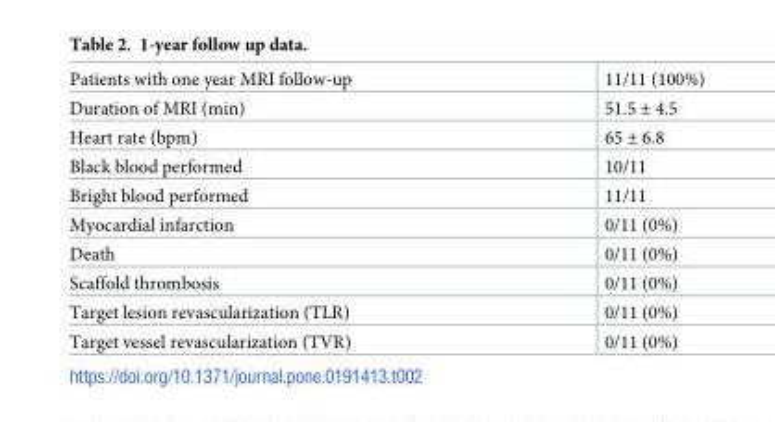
<table><tbody><tr><td>Patients with one year MRI follow-up</td><td>11/11 (100%)</td></tr><tr><td>Duration of MRI (min)</td><td>51.5 ± 4.5</td></tr><tr><td>Heart rate (bpm)</td><td>65 ± 6.8</td></tr><tr><td>Black blood performed</td><td>10/11</td></tr><tr><td>Bright blood performed</td><td>11/11</td></tr><tr><td>Myocardial infarction</td><td>0/11 (0%)</td></tr><tr><td>Death</td><td>0/11 (0%)</td></tr><tr><td>Scaffold thrombosis</td><td>0/11 (0%)</td></tr><tr><td>Target lesion revascularization (TLR)</td><td>0/11 (0%)</td></tr><tr><td>Target vessel revascularization (TVR)</td><td>0/11 (0%)</td></tr></tbody></table>